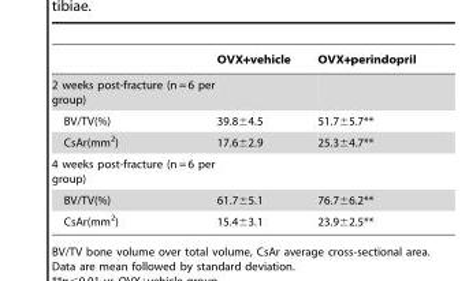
<table><thead><tr><td></td><td>OVX+vehicle</td><td>OVX+perindopril</td></tr></thead><tbody><tr><td colspan="3">2 weeks post-fracture (n = 6 per group)</td></tr><tr><td>BV/TV(%)</td><td>39.8±4.5</td><td>51.7±5.7**</td></tr><tr><td>CsAr(mm<sup>2</sup>)</td><td>17.6±2.9</td><td>25.3±4.7**</td></tr><tr><td colspan="3">4 weeks post-fracture (n = 6 per group)</td></tr><tr><td>BV/TV(%)</td><td>61.7±5.1</td><td>76.7±6.2**</td></tr><tr><td>CsAr(mm<sup>2</sup>)</td><td>15.4±3.1</td><td>23.9±2.5**</td></tr></tbody></table>